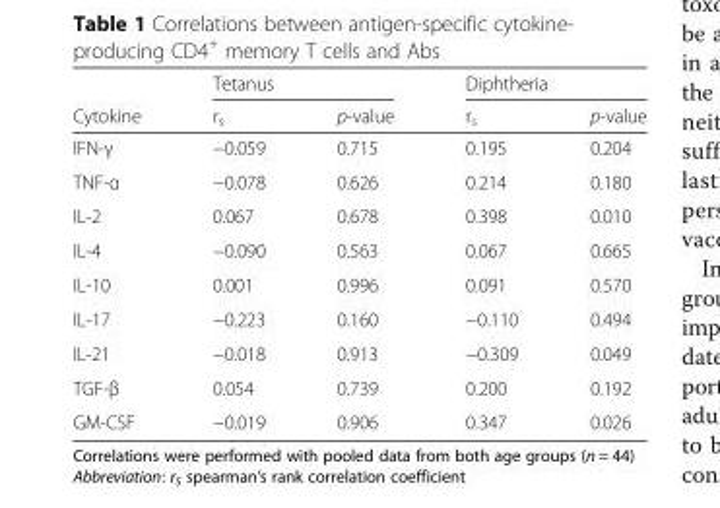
<table><thead><tr><td rowspan="2">Cytokine</td><td colspan="2">Tetanus</td><td colspan="2">Diphtheria</td></tr><tr><td>r<sub>s</sub></td><td>p-value</td><td>r<sub>s</sub></td><td>p-value</td></tr></thead><tbody><tr><td>IFN-γ</td><td>−0.059</td><td>0.715</td><td>0.195</td><td>0.204</td></tr><tr><td>TNF-α</td><td>−0.078</td><td>0.626</td><td>0.214</td><td>0.180</td></tr><tr><td>IL-2</td><td>0.067</td><td>0.678</td><td>0.398</td><td>0.010</td></tr><tr><td>IL-4</td><td>−0.090</td><td>0.563</td><td>0.067</td><td>0.665</td></tr><tr><td>IL-10</td><td>0.001</td><td>0.996</td><td>0.091</td><td>0.570</td></tr><tr><td>IL-17</td><td>−0.223</td><td>0.160</td><td>−0.110</td><td>0.494</td></tr><tr><td>IL-21</td><td>−0.018</td><td>0.913</td><td>−0.309</td><td>0.049</td></tr><tr><td>TGF-β</td><td>0.054</td><td>0.739</td><td>0.200</td><td>0.192</td></tr><tr><td>GM-CSF</td><td>−0.019</td><td>0.906</td><td>0.347</td><td>0.026</td></tr></tbody></table>